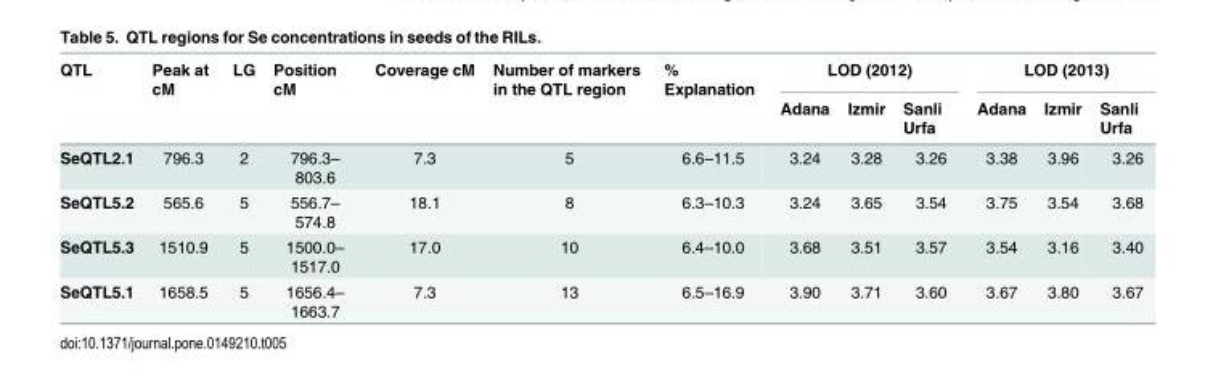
<table><thead><tr><td rowspan="2">QTL</td><td rowspan="2">Peak at cM</td><td rowspan="2">LG</td><td rowspan="2">Position cM</td><td rowspan="2">Coverage cM</td><td rowspan="2">Number of markers in the QTL region</td><td rowspan="2">% Explanation</td><td colspan="3">LOD (2012)</td><td colspan="3">LOD (2013)</td></tr><tr><td>Adana</td><td>Izmir</td><td>Sanli Urfa</td><td>Adana</td><td>Izmir</td><td>Sanli Urfa</td></tr></thead><tbody><tr><td>SeQTL2.1</td><td>796.3</td><td>2</td><td>796.3– 803.6</td><td>7.3</td><td>5</td><td>6.6–11.5</td><td>3.24</td><td>3.28</td><td>3.26</td><td>3.38</td><td>3.96</td><td>3.26</td></tr><tr><td>SeQTL5.2</td><td>565.6</td><td>5</td><td>556.7– 574.8</td><td>18.1</td><td>8</td><td>6.3–10.3</td><td>3.24</td><td>3.65</td><td>3.54</td><td>3.75</td><td>3.54</td><td>3.68</td></tr><tr><td>SeQTL5.3</td><td>1510.9</td><td>5</td><td>1500.0– 1517.0</td><td>17.0</td><td>10</td><td>6.4–10.0</td><td>3.68</td><td>3.51</td><td>3.57</td><td>3.54</td><td>3.16</td><td>3.40</td></tr><tr><td>SeQTL5.1</td><td>1658.5</td><td>5</td><td>1656.4– 1663.7</td><td>7.3</td><td>13</td><td>6.5–16.9</td><td>3.90</td><td>3.71</td><td>3.60</td><td>3.67</td><td>3.80</td><td>3.67</td></tr></tbody></table>